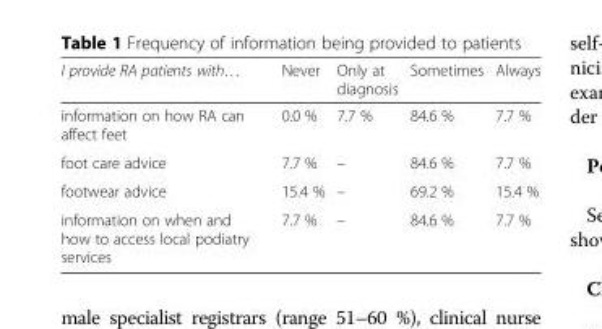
<table><thead><tr><td>I provide RA patients with…</td><td>Never</td><td>Only at diagnosis</td><td>Sometimes</td><td>Always</td></tr></thead><tbody><tr><td>information on how RA can affect feet</td><td>0.0 %</td><td>7.7 %</td><td>84.6 %</td><td>7.7 %</td></tr><tr><td>foot care advice</td><td>7.7 %</td><td>–</td><td>84.6 %</td><td>7.7 %</td></tr><tr><td>footwear advice</td><td>15.4 %</td><td>–</td><td>69.2 %</td><td>15.4 %</td></tr><tr><td>information on when and how to access local podiatry services</td><td>7.7 %</td><td>–</td><td>84.6 %</td><td>7.7 %</td></tr></tbody></table>